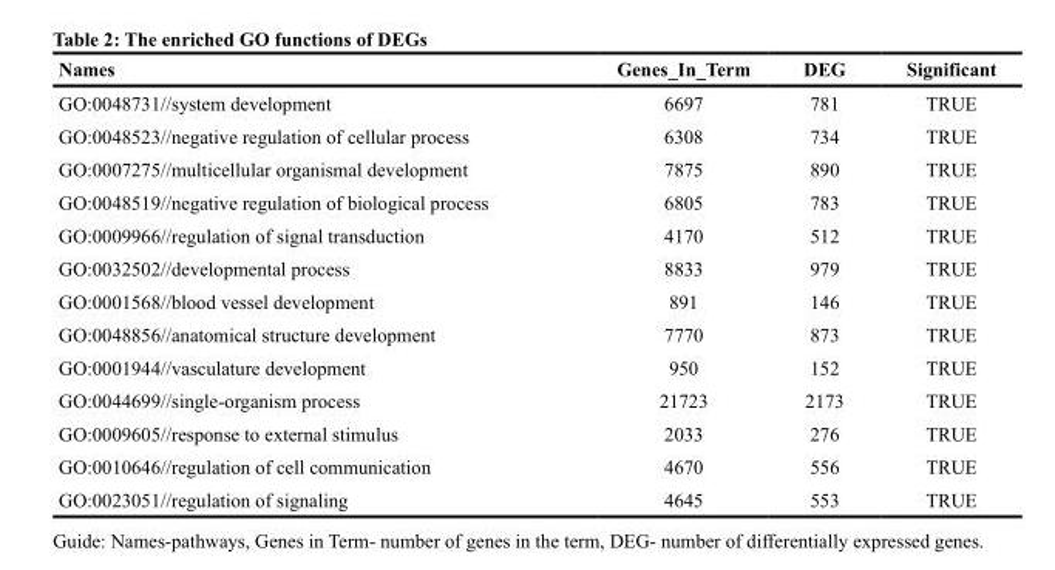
<table><thead><tr><td>Names</td><td>Genes_In_Term</td><td>DEG</td><td>Significant</td></tr></thead><tbody><tr><td>GO:0048731//system development</td><td>6697</td><td>781</td><td>TRUE</td></tr><tr><td>GO:0048523//negative regulation of cellular process</td><td>6308</td><td>734</td><td>TRUE</td></tr><tr><td>GO:0007275//multicellular organismal development</td><td>7875</td><td>890</td><td>TRUE</td></tr><tr><td>GO:0048519//negative regulation of biological process</td><td>6805</td><td>783</td><td>TRUE</td></tr><tr><td>GO:0009966//regulation of signal transduction</td><td>4170</td><td>512</td><td>TRUE</td></tr><tr><td>GO:0032502//developmental process</td><td>8833</td><td>979</td><td>TRUE</td></tr><tr><td>GO:0001568//blood vessel development</td><td>891</td><td>146</td><td>TRUE</td></tr><tr><td>GO:0048856//anatomical structure development</td><td>7770</td><td>873</td><td>TRUE</td></tr><tr><td>GO:0001944//vasculature development</td><td>950</td><td>152</td><td>TRUE</td></tr><tr><td>GO:0044699//single-organism process</td><td>21723</td><td>2173</td><td>TRUE</td></tr><tr><td>GO:0009605//response to external stimulus</td><td>2033</td><td>276</td><td>TRUE</td></tr><tr><td>GO:0010646//regulation of cell communication</td><td>4670</td><td>556</td><td>TRUE</td></tr><tr><td>GO:0023051//regulation of signaling</td><td>4645</td><td>553</td><td>TRUE</td></tr></tbody></table>